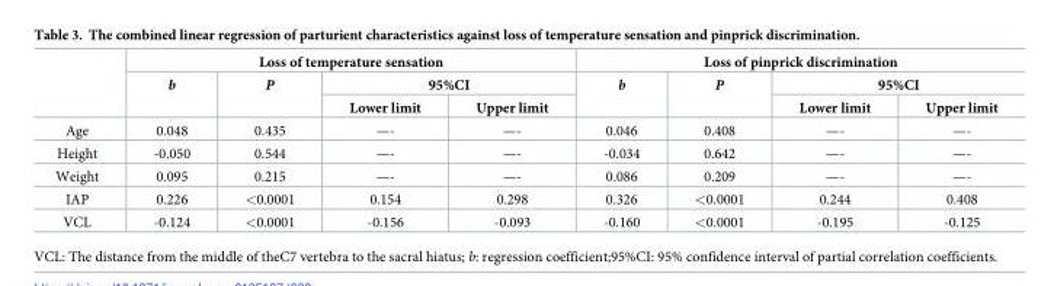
<table><thead><tr><td rowspan="3"></td><td colspan="4">Loss of temperature sensation</td><td colspan="4">Loss of pinprick discrimination</td></tr><tr><td rowspan="2">b</td><td rowspan="2">P</td><td colspan="2">95%CI</td><td rowspan="2">b</td><td rowspan="2">P</td><td colspan="2">95%CI</td></tr><tr><td>Lower limit</td><td>Upper limit</td><td>Lower limit</td><td>Upper limit</td></tr></thead><tbody><tr><td>Age</td><td>0.048</td><td>0.435</td><td>—-</td><td>—-</td><td>0.046</td><td>0.408</td><td>—-</td><td>—-</td></tr><tr><td>Height</td><td>-0.050</td><td>0.544</td><td>—-</td><td>—-</td><td>-0.034</td><td>0.642</td><td>—-</td><td>—-</td></tr><tr><td>Weight</td><td>0.095</td><td>0.215</td><td>—-</td><td>—-</td><td>0.086</td><td>0.209</td><td>—-</td><td>—-</td></tr><tr><td>IAP</td><td>0.226</td><td>&lt;0.0001</td><td>0.154</td><td>0.298</td><td>0.326</td><td>&lt;0.0001</td><td>0.244</td><td>0.408</td></tr><tr><td>VCL</td><td>-0.124</td><td>&lt;0.0001</td><td>-0.156</td><td>-0.093</td><td>-0.160</td><td>&lt;0.0001</td><td>-0.195</td><td>-0.125</td></tr></tbody></table>